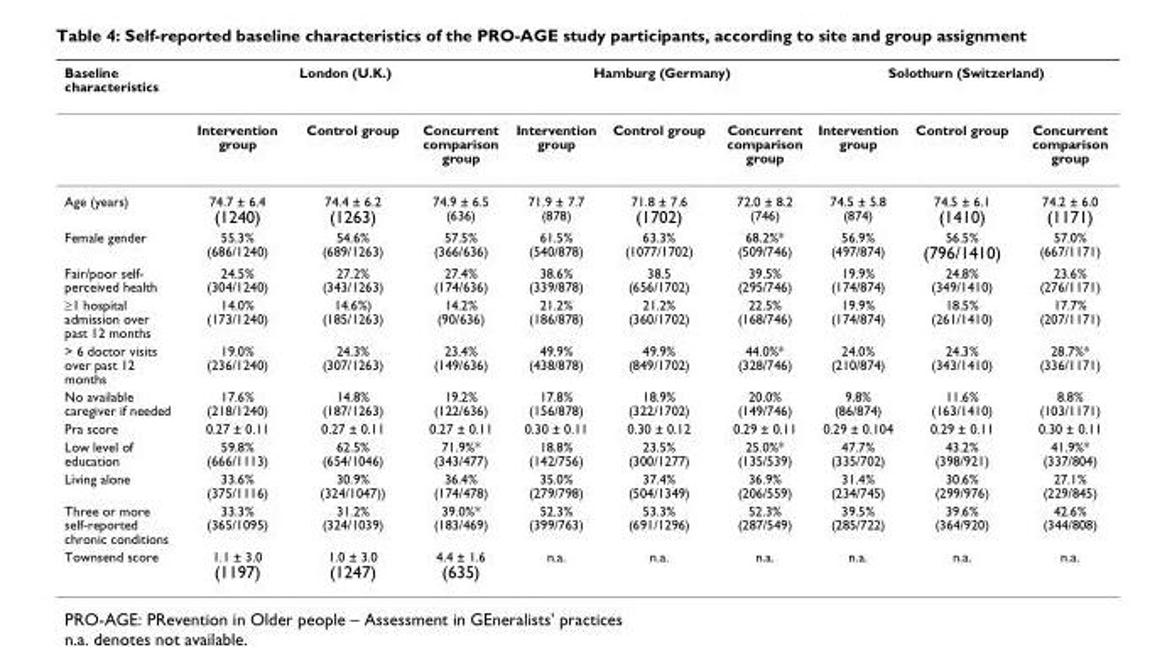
<table><thead><tr><td rowspan="2">Baseline characteristics</td><td colspan="3">London (U.K.)</td><td colspan="3">Hamburg (Germany)</td><td colspan="3">Solothurn (Switzerland)</td></tr><tr><td>Intervention group</td><td>Control group</td><td>Concurrent comparison group</td><td>Intervention group</td><td>Control group</td><td>Concurrent comparison group</td><td>Intervention group</td><td>Control group</td><td>Concurrent comparison group</td></tr></thead><tbody><tr><td>Age (years)</td><td>74.7 ± 6.4 (1240)</td><td>74.4 ± 6.2 (1263)</td><td>74.9 ± 6.5 (636)</td><td>71.9 ± 7.7 (878)</td><td>71.8 ± 7.6 (1702)</td><td>72.0 ± 8.2 (746)</td><td>74.5 ± 5.8 (874)</td><td>74.5 ± 6.1 (1410)</td><td>74.2 ± 6.0 (1171)</td></tr><tr><td>Female gender</td><td>55.3% (686/1240)</td><td>54.6% (689/1263)</td><td>57.5% (366/636)</td><td>61.5% (540/878)</td><td>63.3% (1077/1702)</td><td>68.2%* (509/746)</td><td>56.9% (497/874)</td><td>56.5% (796/1410)</td><td>57.0% (667/1171)</td></tr><tr><td>Fair/poor self- perceived health</td><td>24.5% (304/1240)</td><td>27.2% (343/1263)</td><td>27.4% (174/636)</td><td>38.6% (339/878)</td><td>38.5 (656/1702)</td><td>39.5% (295/746)</td><td>19.9% (174/874)</td><td>24.8% (349/1410)</td><td>23.6% (276/1171)</td></tr><tr><td>≥1 hospital admission over past 12 months</td><td>14.0% (173/1240)</td><td>14.6%) (185/1263)</td><td>14.2% (90/636)</td><td>21.2% (186/878)</td><td>21.2% (360/1702)</td><td>22.5% (168/746)</td><td>19.9% (174/874)</td><td>18.5% (261/1410)</td><td>17.7% (207/1171)</td></tr><tr><td>&gt; 6 doctor visits over past 12 months</td><td>19.0% (236/1240)</td><td>24.3% (307/1263)</td><td>23.4% (149/636)</td><td>49.9% (438/878)</td><td>49.9% (849/1702)</td><td>44.0%* (328/746)</td><td>24.0% (210/874)</td><td>24.3% (343/1410)</td><td>28.7%* (336/1171)</td></tr><tr><td>No available caregiver if needed</td><td>17.6% (218/1240)</td><td>14.8% (187/1263)</td><td>19.2% (122/636)</td><td>17.8% (156/878)</td><td>18.9% (322/1702)</td><td>20.0% (149/746)</td><td>9.8% (86/874)</td><td>11.6% (163/1410)</td><td>8.8% (103/1171)</td></tr><tr><td>Pra score</td><td>0.27 ± 0.11</td><td>0.27 ± 0.11</td><td>0.27 ± 0.11</td><td>0.30 ± 0.11</td><td>0.30 ± 0.12</td><td>0.29 ± 0.11</td><td>0.29 ± 0.104</td><td>0.29 ± 0.11</td><td>0.30 ± 0.11</td></tr><tr><td>Low level of education</td><td>59.8% (666/1113)</td><td>62.5% (654/1046)</td><td>71.9%* (343/477)</td><td>18.8% (142/756)</td><td>23.5% (300/1277)</td><td>25.0%* (135/539)</td><td>47.7% (335/702)</td><td>43.2% (398/921)</td><td>41.9%* (337/804)</td></tr><tr><td>Living alone</td><td>33.6% (375/1116)</td><td>30.9% (324/1047))</td><td>36.4% (174/478)</td><td>35.0% (279/798)</td><td>37.4% (504/1349)</td><td>36.9% (206/559)</td><td>31.4% (234/745)</td><td>30.6% (299/976)</td><td>27.1% (229/845)</td></tr><tr><td>Three or more self-reported chronic conditions</td><td>33.3% (365/1095)</td><td>31.2% (324/1039)</td><td>39.0%* (183/469)</td><td>52.3% (399/763)</td><td>53.3% (691/1296)</td><td>52.3% (287/549)</td><td>39.5% (285/722)</td><td>39.6% (364/920)</td><td>42.6% (344/808)</td></tr><tr><td>Townsend score</td><td>1.1 ± 3.0 (1197)</td><td>1.0 ± 3.0 (1247)</td><td>4.4 ± 1.6 (635)</td><td>n.a.</td><td>n.a.</td><td>n.a.</td><td>n.a.</td><td>n.a.</td><td>n.a.</td></tr></tbody></table>